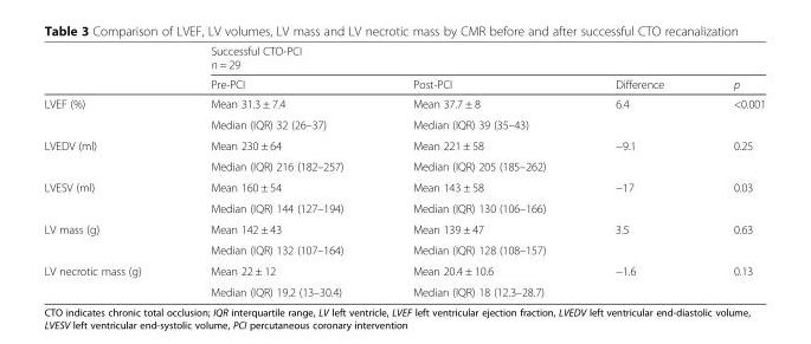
<table><thead><tr><td rowspan="2"></td><td colspan="4">Successful CTO-PCI n = 29</td></tr><tr><td>Pre-PCI</td><td>Post-PCI</td><td>Difference</td><td>p</td></tr></thead><tbody><tr><td rowspan="2">LVEF (%)</td><td>Mean 31.3 ± 7.4</td><td>Mean 37.7 ± 8</td><td rowspan="2">6.4</td><td rowspan="2">&lt;0.001</td></tr><tr><td>Median (IQR) 32 (26–37)</td><td>Median (IQR) 39 (35–43)</td></tr><tr><td rowspan="2">LVEDV (ml)</td><td>Mean 230 ± 64</td><td>Mean 221 ± 58</td><td rowspan="2">−9.1</td><td rowspan="2">0.25</td></tr><tr><td>Median (IQR) 216 (182–257)</td><td>Median (IQR) 205 (185–262)</td></tr><tr><td rowspan="2">LVESV (ml)</td><td>Mean 160 ± 54</td><td>Mean 143 ± 58</td><td rowspan="2">−17</td><td rowspan="2">0.03</td></tr><tr><td>Median (IQR) 144 (127–194)</td><td>Median (IQR) 130 (106–166)</td></tr><tr><td rowspan="2">LV mass (g)</td><td>Mean 142 ± 43</td><td>Mean 139 ± 47</td><td rowspan="2">3.5</td><td rowspan="2">0.63</td></tr><tr><td>Median (IQR) 132 (107–164)</td><td>Median (IQR) 128 (108–157)</td></tr><tr><td rowspan="2">LV necrotic mass (g)</td><td>Mean 22 ± 12</td><td>Mean 20.4 ± 10.6</td><td rowspan="2">−1.6</td><td rowspan="2">0.13</td></tr><tr><td>Median (IQR) 19.2 (13–30.4)</td><td>Median (IQR) 18 (12.3–28.7)</td></tr></tbody></table>